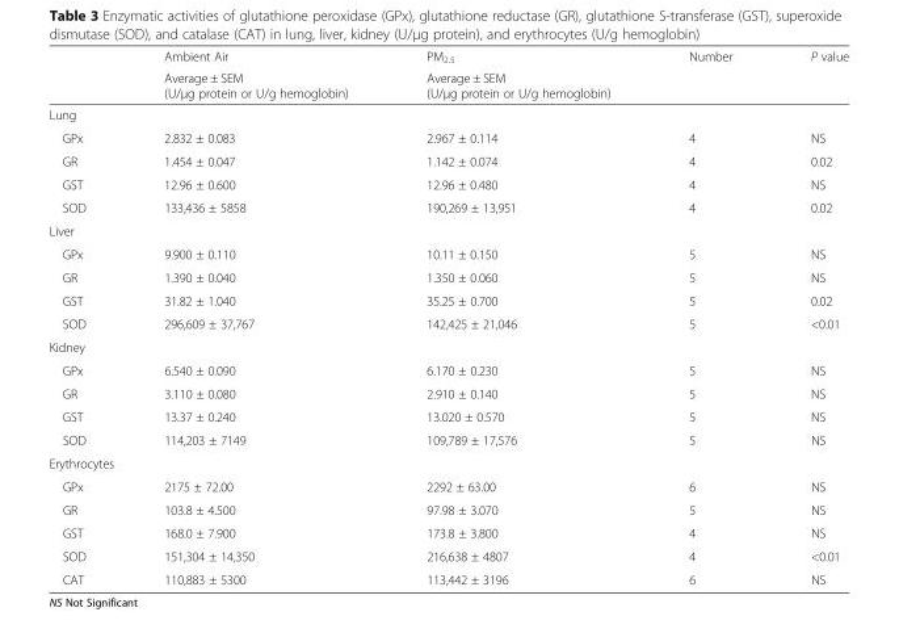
<table><thead><tr><td rowspan="2"></td><td rowspan="2">Ambient Air Average ± SEM (U/μg protein or U/g hemoglobin)</td><td rowspan="2">PM<sub>2.5</sub> Average ± SEM (U/μg protein or U/g hemoglobin)</td><td rowspan="2">Number</td><td rowspan="2">P value</td></tr><tr></tr></thead><tbody><tr><td colspan="5">Lung</td></tr><tr><td>GPx</td><td>2.832 ± 0.083</td><td>2.967 ± 0.114</td><td>4</td><td>NS</td></tr><tr><td>GR</td><td>1.454 ± 0.047</td><td>1.142 ± 0.074</td><td>4</td><td>0.02</td></tr><tr><td>GST</td><td>12.96 ± 0.600</td><td>12.96 ± 0.480</td><td>4</td><td>NS</td></tr><tr><td>SOD</td><td>133,436 ± 5858</td><td>190,269 ± 13,951</td><td>4</td><td>0.02</td></tr><tr><td colspan="5">Liver</td></tr><tr><td>GPx</td><td>9.900 ± 0.110</td><td>10.11 ± 0.150</td><td>5</td><td>NS</td></tr><tr><td>GR</td><td>1.390 ± 0.040</td><td>1.350 ± 0.060</td><td>5</td><td>NS</td></tr><tr><td>GST</td><td>31.82 ± 1.040</td><td>35.25 ± 0.700</td><td>5</td><td>0.02</td></tr><tr><td>SOD</td><td>296,609 ± 37,767</td><td>142,425 ± 21,046</td><td>5</td><td>&lt;0.01</td></tr><tr><td colspan="5">Kidney</td></tr><tr><td>GPx</td><td>6.540 ± 0.090</td><td>6.170 ± 0.230</td><td>5</td><td>NS</td></tr><tr><td>GR</td><td>3.110 ± 0.080</td><td>2.910 ± 0.140</td><td>5</td><td>NS</td></tr><tr><td>GST</td><td>13.37 ± 0.240</td><td>13.020 ± 0.570</td><td>5</td><td>NS</td></tr><tr><td>SOD</td><td>114,203 ± 7149</td><td>109,789 ± 17,576</td><td>5</td><td>NS</td></tr><tr><td colspan="5">Erythrocytes</td></tr><tr><td>GPx</td><td>2175 ± 72.00</td><td>2292 ± 63.00</td><td>6</td><td>NS</td></tr><tr><td>GR</td><td>103.8 ± 4.500</td><td>97.98 ± 3.070</td><td>5</td><td>NS</td></tr><tr><td>GST</td><td>168.0 ± 7.900</td><td>173.8 ± 3.800</td><td>4</td><td>NS</td></tr><tr><td>SOD</td><td>151,304 ± 14,350</td><td>216,638 ± 4807</td><td>4</td><td>&lt;0.01</td></tr><tr><td>CAT</td><td>110,883 ± 5300</td><td>113,442 ± 3196</td><td>6</td><td>NS</td></tr></tbody></table>